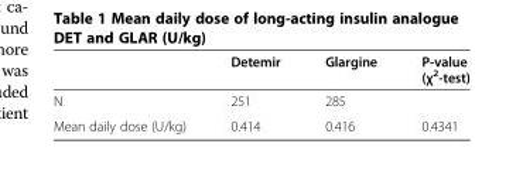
<table><thead><tr><td></td><td>Detemir</td><td>Glargine</td><td>P-value (χ2-test)</td></tr></thead><tbody><tr><td>N</td><td>251</td><td>285</td><td></td></tr><tr><td>Mean daily dose (U/kg)</td><td>0.414</td><td>0.416</td><td>0.4341</td></tr></tbody></table>